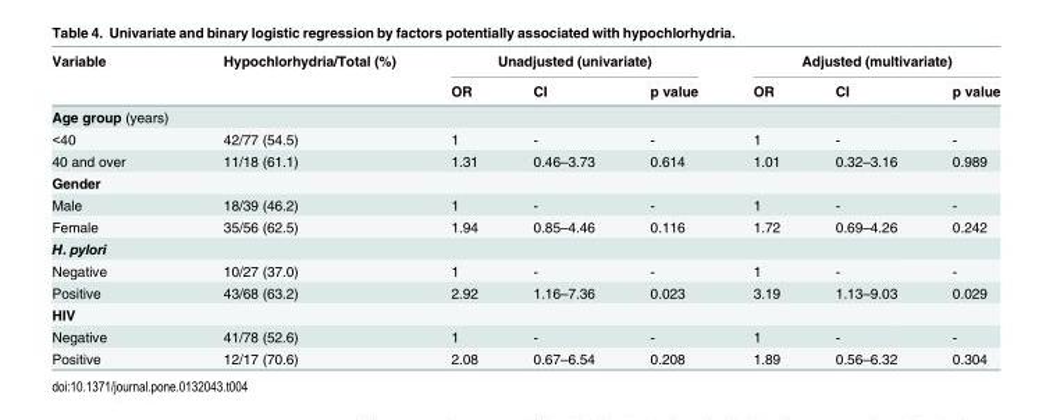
<table><thead><tr><td rowspan="2">Variable</td><td rowspan="2">Hypochlorhydria/Total (%)</td><td colspan="3">Unadjusted (univariate)</td><td colspan="3">Adjusted (multivariate)</td></tr><tr><td>OR</td><td>CI</td><td>p value</td><td>OR</td><td>CI</td><td>p value</td></tr></thead><tbody><tr><td colspan="8">Age group (years)</td></tr><tr><td>&lt;40</td><td>42/77 (54.5)</td><td>1</td><td>-</td><td>-</td><td>1</td><td>-</td><td>-</td></tr><tr><td>40 and over</td><td>11/18 (61.1)</td><td>1.31</td><td>0.46–3.73</td><td>0.614</td><td>1.01</td><td>0.32–3.16</td><td>0.989</td></tr><tr><td colspan="8">Gender</td></tr><tr><td>Male</td><td>18/39 (46.2)</td><td>1</td><td>-</td><td>-</td><td>1</td><td>-</td><td>-</td></tr><tr><td>Female</td><td>35/56 (62.5)</td><td>1.94</td><td>0.85–4.46</td><td>0.116</td><td>1.72</td><td>0.69–4.26</td><td>0.242</td></tr><tr><td colspan="8">H. pylori</td></tr><tr><td>Negative</td><td>10/27 (37.0)</td><td>1</td><td>-</td><td>-</td><td>1</td><td>-</td><td>-</td></tr><tr><td>Positive</td><td>43/68 (63.2)</td><td>2.92</td><td>1.16–7.36</td><td>0.023</td><td>3.19</td><td>1.13–9.03</td><td>0.029</td></tr><tr><td colspan="8">HIV</td></tr><tr><td>Negative</td><td>41/78 (52.6)</td><td>1</td><td>-</td><td>-</td><td>1</td><td>-</td><td>-</td></tr><tr><td>Positive</td><td>12/17 (70.6)</td><td>2.08</td><td>0.67–6.54</td><td>0.208</td><td>1.89</td><td>0.56–6.32</td><td>0.304</td></tr></tbody></table>